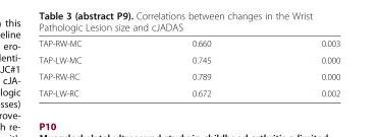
<table><tbody><tr><td>TAP-RW-MC</td><td>0.660</td><td>0.003</td></tr><tr><td>TAP-LW-MC</td><td>0.745</td><td>0.000</td></tr><tr><td>TAP-RW-RC</td><td>0.789</td><td>0.000</td></tr><tr><td>TAP-LW-RC</td><td>0.672</td><td>0.002</td></tr></tbody></table>